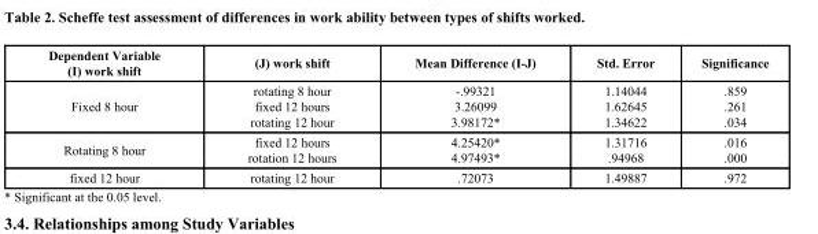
<table><thead><tr><td>Dependent Variable (I) work shift</td><td>(J) work shift</td><td>Mean Difference (I-J)</td><td>Std. Error</td><td>Significance</td></tr></thead><tbody><tr><td>Fixed 8 hour</td><td>rotating 8 hour fixed 12 hours rotating 12 hour</td><td>-.99321 3.26099 3.98172*</td><td>1.14044 1.62645 1.34622</td><td>.859 .261 .034</td></tr><tr><td>Rotating 8 hour</td><td>fixed 12 hours rotation 12 hours</td><td>4.25420* 4.97493*</td><td>1.31716 .94968</td><td>.016 .000</td></tr><tr><td>fixed 12 hour</td><td>rotating 12 hour</td><td>.72073</td><td>1.49887</td><td>.972</td></tr></tbody></table>